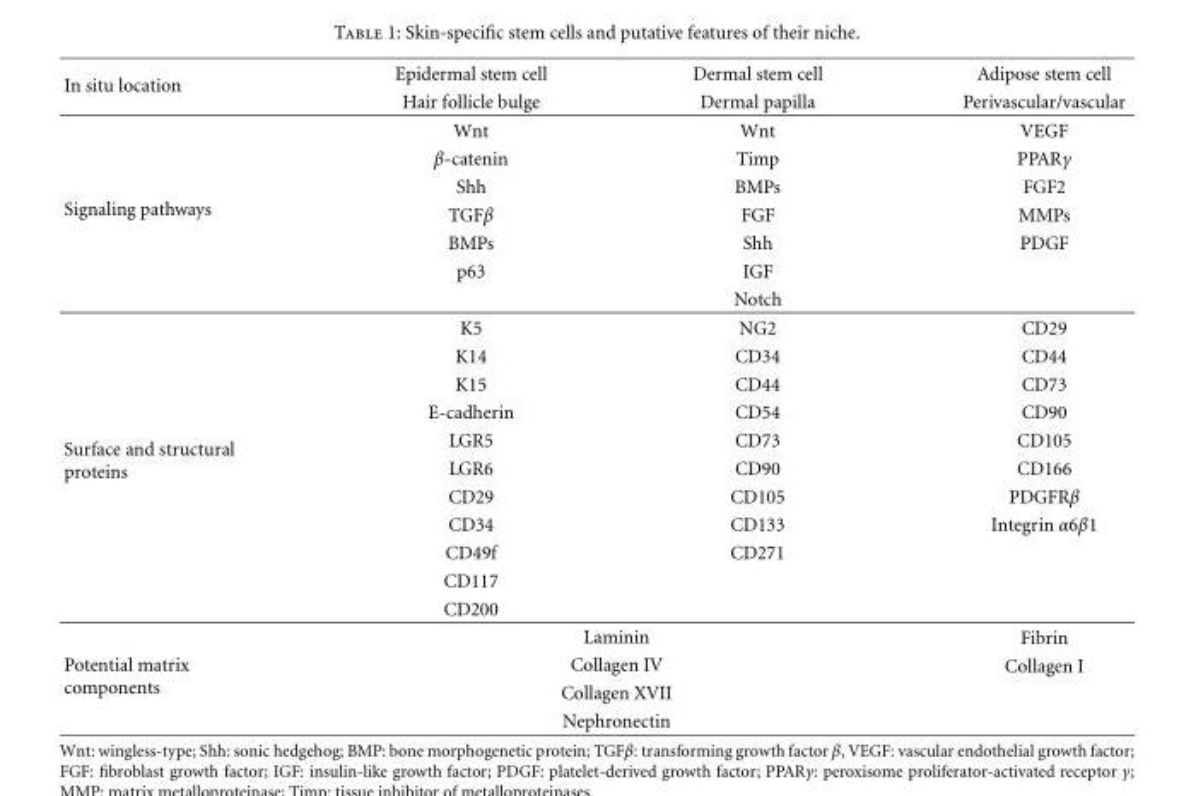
<table><thead><tr><td rowspan="2">In situ location</td><td rowspan="2">Epidermal stem cell Hair follicle bulge</td><td rowspan="2">Dermal stem cell Dermal papilla</td><td rowspan="2">Adipose stem cell Perivascular/vascular</td></tr><tr></tr></thead><tbody><tr><td rowspan="7">Signaling pathways</td><td>Wnt</td><td>Wnt</td><td>VEGF</td></tr><tr><td>β-catenin</td><td>Timp</td><td>PPARγ</td></tr><tr><td>Shh</td><td>BMPs</td><td>FGF2</td></tr><tr><td>TGFβ</td><td>FGF</td><td>MMPs</td></tr><tr><td>BMPs</td><td>Shh</td><td>PDGF</td></tr><tr><td>p63</td><td>IGF</td><td></td></tr><tr><td></td><td>Notch</td><td></td></tr><tr><td rowspan="11">Surface and structural proteins</td><td>K5</td><td>NG2</td><td>CD29</td></tr><tr><td>K14</td><td>CD34</td><td>CD44</td></tr><tr><td>K15</td><td>CD44</td><td>CD73</td></tr><tr><td>E-cadherin</td><td>CD54</td><td>CD90</td></tr><tr><td>LGR5</td><td>CD73</td><td>CD105</td></tr><tr><td>LGR6</td><td>CD90</td><td>CD166</td></tr><tr><td>CD29</td><td>CD105</td><td>PDGFRβ</td></tr><tr><td>CD34</td><td>CD133</td><td>Integrin α6β1</td></tr><tr><td>CD49f</td><td>CD271</td><td></td></tr><tr><td>CD117</td><td></td><td></td></tr><tr><td>CD200</td><td></td><td></td></tr><tr><td rowspan="4">Potential matrix components</td><td colspan="2">Laminin</td><td>Fibrin</td></tr><tr><td colspan="2">Collagen IV</td><td>Collagen I</td></tr><tr><td colspan="2">Collagen XVII</td><td></td></tr><tr><td colspan="2">Nephronectin</td><td></td></tr></tbody></table>